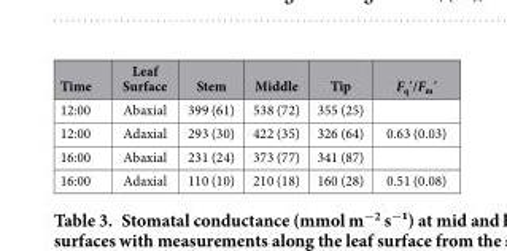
<table><thead><tr><td>Time</td><td>Leaf Surface</td><td>Stem</td><td>Middle</td><td>Tip</td><td>F<sub>q</sub>′/F<sub>m</sub>′</td></tr></thead><tbody><tr><td>12:00</td><td>Abaxial</td><td>399 (61)</td><td>538 (72)</td><td>355 (25)</td><td></td></tr><tr><td>12:00</td><td>Adaxial</td><td>293 (30)</td><td>422 (35)</td><td>326 (64)</td><td>0.63 (0.03)</td></tr><tr><td>16:00</td><td>Abaxial</td><td>231 (24)</td><td>373 (77)</td><td>341 (87)</td><td></td></tr><tr><td>16:00</td><td>Adaxial</td><td>110 (10)</td><td>210 (18)</td><td>160 (28)</td><td>0.51 (0.08)</td></tr></tbody></table>